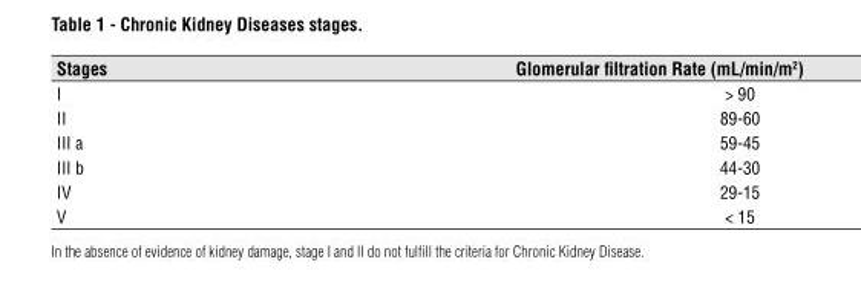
<table><thead><tr><td>stages</td><td>Glomerular filtration Rate (mL/min/m<sup>2</sup>)</td></tr></thead><tbody><tr><td>I</td><td>&gt; 90</td></tr><tr><td>II</td><td>89-60</td></tr><tr><td>III a</td><td>59-45</td></tr><tr><td>III b</td><td>44-30</td></tr><tr><td>IV</td><td>29-15</td></tr><tr><td>V</td><td>&lt; 15</td></tr></tbody></table>